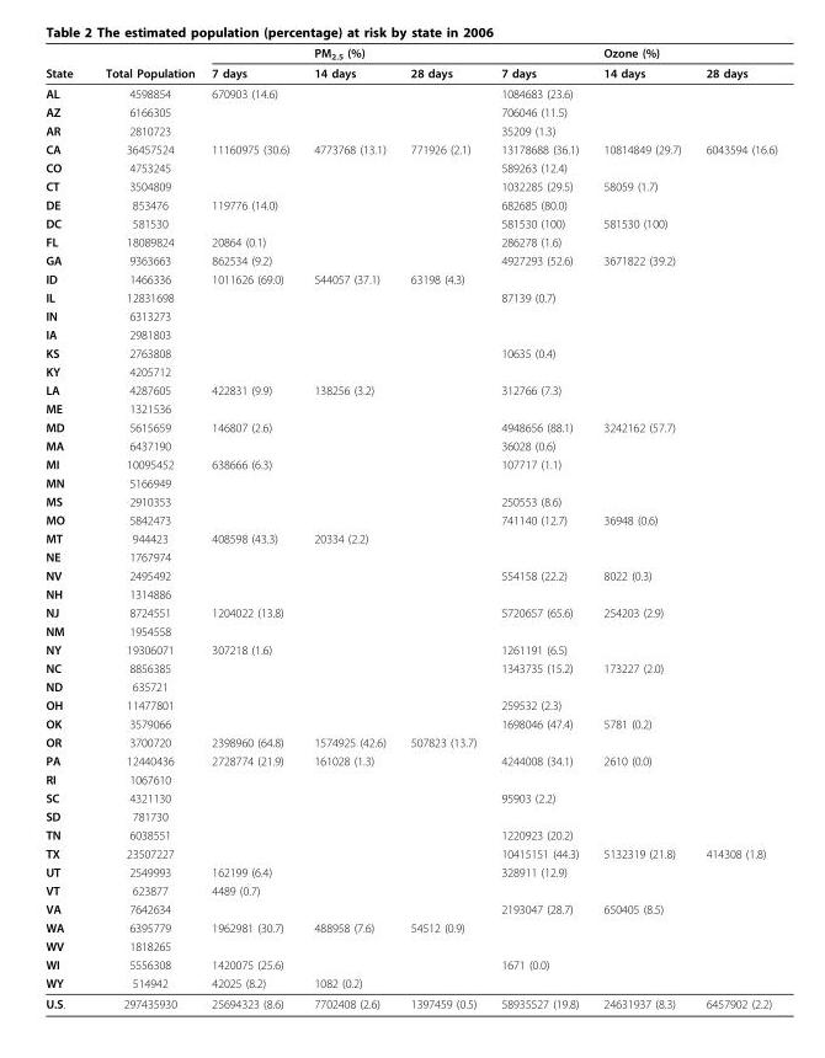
<table><thead><tr><td rowspan="2">State</td><td rowspan="2">Total Population</td><td rowspan="2">7 days</td><td rowspan="2">PM<sub>2.5</sub> (%) 14 days</td><td rowspan="2">28 days</td><td rowspan="2">7 days</td><td rowspan="2">Ozone (%) 14 days</td><td rowspan="2">28 days</td></tr><tr></tr></thead><tbody><tr><td>AL</td><td>4598854</td><td>670903 (14.6)</td><td></td><td></td><td>1084683 (23.6)</td><td></td><td></td></tr><tr><td>AZ</td><td>6166305</td><td></td><td></td><td></td><td>706046 (11.5)</td><td></td><td></td></tr><tr><td>AR</td><td>2810723</td><td></td><td></td><td></td><td>35209 (1.3)</td><td></td><td></td></tr><tr><td>CA</td><td>36457524</td><td>11160975 (30.6)</td><td>4773768 (13.1)</td><td>771926 (2.1)</td><td>13178688 (36.1)</td><td>10814849 (29.7)</td><td>6043594 (16.6)</td></tr><tr><td>CO</td><td>4753245</td><td></td><td></td><td></td><td>589263 (12.4)</td><td></td><td></td></tr><tr><td>CT</td><td>3504809</td><td></td><td></td><td></td><td>1032285 (29.5)</td><td>58059 (1.7)</td><td></td></tr><tr><td>DE</td><td>853476</td><td>119776 (14.0)</td><td></td><td></td><td>682685 (80.0)</td><td></td><td></td></tr><tr><td>DC</td><td>581530</td><td></td><td></td><td></td><td>581530 (100)</td><td>581530 (100)</td><td></td></tr><tr><td>FL</td><td>18089824</td><td>20864 (0.1)</td><td></td><td></td><td>286278 (1.6)</td><td></td><td></td></tr><tr><td>GA</td><td>9363663</td><td>862534 (9.2)</td><td></td><td></td><td>4927293 (52.6)</td><td>3671822 (39.2)</td><td></td></tr><tr><td>ID</td><td>1466336</td><td>1011626 (69.0)</td><td>544057 (37.1)</td><td>63198 (4.3)</td><td></td><td></td><td></td></tr><tr><td>IL</td><td>12831698</td><td></td><td></td><td></td><td>87139 (0.7)</td><td></td><td></td></tr><tr><td>IN</td><td>6313273</td><td></td><td></td><td></td><td></td><td></td><td></td></tr><tr><td>IA</td><td>2981803</td><td></td><td></td><td></td><td></td><td></td><td></td></tr><tr><td>KS</td><td>2763808</td><td></td><td></td><td></td><td>10635 (0.4)</td><td></td><td></td></tr><tr><td>KY</td><td>4205712</td><td></td><td></td><td></td><td></td><td></td><td></td></tr><tr><td>LA</td><td>4287605</td><td>422831 (9.9)</td><td>138256 (3.2)</td><td></td><td>312766 (7.3)</td><td></td><td></td></tr><tr><td>ME</td><td>1321536</td><td></td><td></td><td></td><td></td><td></td><td></td></tr><tr><td>MD</td><td>5615659</td><td>146807 (2.6)</td><td></td><td></td><td>4948656 (88.1)</td><td>3242162 (57.7)</td><td></td></tr><tr><td>MA</td><td>6437190</td><td></td><td></td><td></td><td>36028 (0.6)</td><td></td><td></td></tr><tr><td>MI</td><td>10095452</td><td>638666 (6.3)</td><td></td><td></td><td>107717 (1.1)</td><td></td><td></td></tr><tr><td>MN</td><td>5166949</td><td></td><td></td><td></td><td></td><td></td><td></td></tr><tr><td>MS</td><td>2910353</td><td></td><td></td><td></td><td>250553 (8.6)</td><td></td><td></td></tr><tr><td>MO</td><td>5842473</td><td></td><td></td><td></td><td>741140 (12.7)</td><td>36948 (0.6)</td><td></td></tr><tr><td>MT</td><td>944423</td><td>408598 (43.3)</td><td>20334 (2.2)</td><td></td><td></td><td></td><td></td></tr><tr><td>NE</td><td>1767974</td><td></td><td></td><td></td><td></td><td></td><td></td></tr><tr><td>NV</td><td>2495492</td><td></td><td></td><td></td><td>554158 (22.2)</td><td>8022 (0.3)</td><td></td></tr><tr><td>NH</td><td>1314886</td><td></td><td></td><td></td><td></td><td></td><td></td></tr><tr><td>NJ</td><td>8724551</td><td>1204022 (13.8)</td><td></td><td></td><td>5720657 (65.6)</td><td>254203 (2.9)</td><td></td></tr><tr><td>NM</td><td>1954558</td><td></td><td></td><td></td><td></td><td></td><td></td></tr><tr><td>NY</td><td>19306071</td><td>307218 (1.6)</td><td></td><td></td><td>1261191 (6.5)</td><td></td><td></td></tr><tr><td>NC</td><td>8856385</td><td></td><td></td><td></td><td>1343735 (15.2)</td><td>173227 (2.0)</td><td></td></tr><tr><td>ND</td><td>635721</td><td></td><td></td><td></td><td></td><td></td><td></td></tr><tr><td>OH</td><td>11477801</td><td></td><td></td><td></td><td>259532 (2.3)</td><td></td><td></td></tr><tr><td>OK</td><td>3579066</td><td></td><td></td><td></td><td>1698046 (47.4)</td><td>5781 (0.2)</td><td></td></tr><tr><td>OR</td><td>3700720</td><td>2398960 (64.8)</td><td>1574925 (42.6)</td><td>507823 (13.7)</td><td></td><td></td><td></td></tr><tr><td>PA</td><td>12440436</td><td>2728774 (21.9)</td><td>161028 (1.3)</td><td></td><td>4244008 (34.1)</td><td>2610 (0.0)</td><td></td></tr><tr><td>RI</td><td>1067610</td><td></td><td></td><td></td><td></td><td></td><td></td></tr><tr><td>SC</td><td>4321130</td><td></td><td></td><td></td><td>95903 (2.2)</td><td></td><td></td></tr><tr><td>SD</td><td>781730</td><td></td><td></td><td></td><td></td><td></td><td></td></tr><tr><td>TN</td><td>6038551</td><td></td><td></td><td></td><td>1220923 (20.2)</td><td></td><td></td></tr><tr><td>TX</td><td>23507227</td><td></td><td></td><td></td><td>10415151 (44.3)</td><td>5132319 (21.8)</td><td>414308 (1.8)</td></tr><tr><td>UT</td><td>2549993</td><td>162199 (6.4)</td><td></td><td></td><td>328911 (12.9)</td><td></td><td></td></tr><tr><td>VT</td><td>623877</td><td>4489 (0.7)</td><td></td><td></td><td></td><td></td><td></td></tr><tr><td>VA</td><td>7642634</td><td></td><td></td><td></td><td>2193047 (28.7)</td><td>650405 (8.5)</td><td></td></tr><tr><td>WA</td><td>6395779</td><td>1962981 (30.7)</td><td>488958 (7.6)</td><td>54512 (0.9)</td><td></td><td></td><td></td></tr><tr><td>WV</td><td>1818265</td><td></td><td></td><td></td><td></td><td></td><td></td></tr><tr><td>WI</td><td>5556308</td><td>1420075 (25.6)</td><td></td><td></td><td>1671 (0.0)</td><td></td><td></td></tr><tr><td>WY</td><td>514942</td><td>42025 (8.2)</td><td>1082 (0.2)</td><td></td><td></td><td></td><td></td></tr><tr><td>U.S.</td><td>297435930</td><td>25694323 (8.6)</td><td>7702408 (2.6)</td><td>1397459 (0.5)</td><td>58935527 (19.8)</td><td>24631937 (8.3)</td><td>6457902 (2.2)</td></tr></tbody></table>